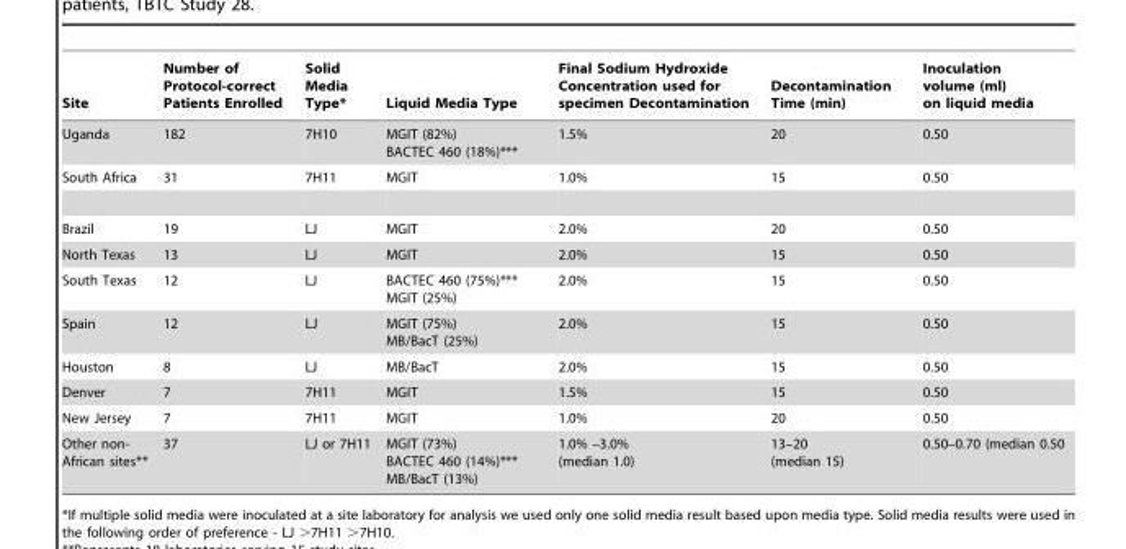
<table><thead><tr><td>Site</td><td>Number of Protocol-correct Patients Enrolled</td><td>Solid Media Type*</td><td>Liquid Media Type</td><td>Final Sodium Hydroxide Concentration used for specimen Decontamination</td><td>Decontamination Time (min)</td><td>Inoculation volume (ml) on liquid media</td></tr></thead><tbody><tr><td>Uganda</td><td>182</td><td>7H10</td><td>MGIT (82%) BACTEC 460 (18%)***</td><td>1.5%</td><td>20</td><td>0.50</td></tr><tr><td>South Africa</td><td>31</td><td>7H11</td><td>MGIT</td><td>1.0%</td><td>15</td><td>0.50</td></tr><tr><td>Brazil</td><td>19</td><td>LJ</td><td>MGIT</td><td>2.0%</td><td>20</td><td>0.50</td></tr><tr><td>North Texas</td><td>13</td><td>LJ</td><td>MGIT</td><td>2.0%</td><td>15</td><td>0.50</td></tr><tr><td>South Texas</td><td>12</td><td>LJ</td><td>BACTEC 460 (75%)*** MGIT (25%)</td><td>2.0%</td><td>15</td><td>0.50</td></tr><tr><td>Spain</td><td>12</td><td>LJ</td><td>MGIT (75%) MB/BacT (25%)</td><td>2.0%</td><td>15</td><td>0.50</td></tr><tr><td>Houston</td><td>8</td><td>LJ</td><td>MB/BacT</td><td>2.0%</td><td>15</td><td>0.50</td></tr><tr><td>Denver</td><td>7</td><td>7H11</td><td>MGIT</td><td>1.5%</td><td>15</td><td>0.50</td></tr><tr><td>New Jersey</td><td>7</td><td>7H11</td><td>MGIT</td><td>1.0%</td><td>20</td><td>0.50</td></tr><tr><td>Other non- African sites**</td><td>37</td><td>LJ or 7H11</td><td>MGIT (73%) BACTEC 460 (14%)*** MB/BacT (13%)</td><td>1.0% –3.0% (median 1.0)</td><td>13–20 (median 15)</td><td>0.50–0.70 (median 0.50</td></tr></tbody></table>